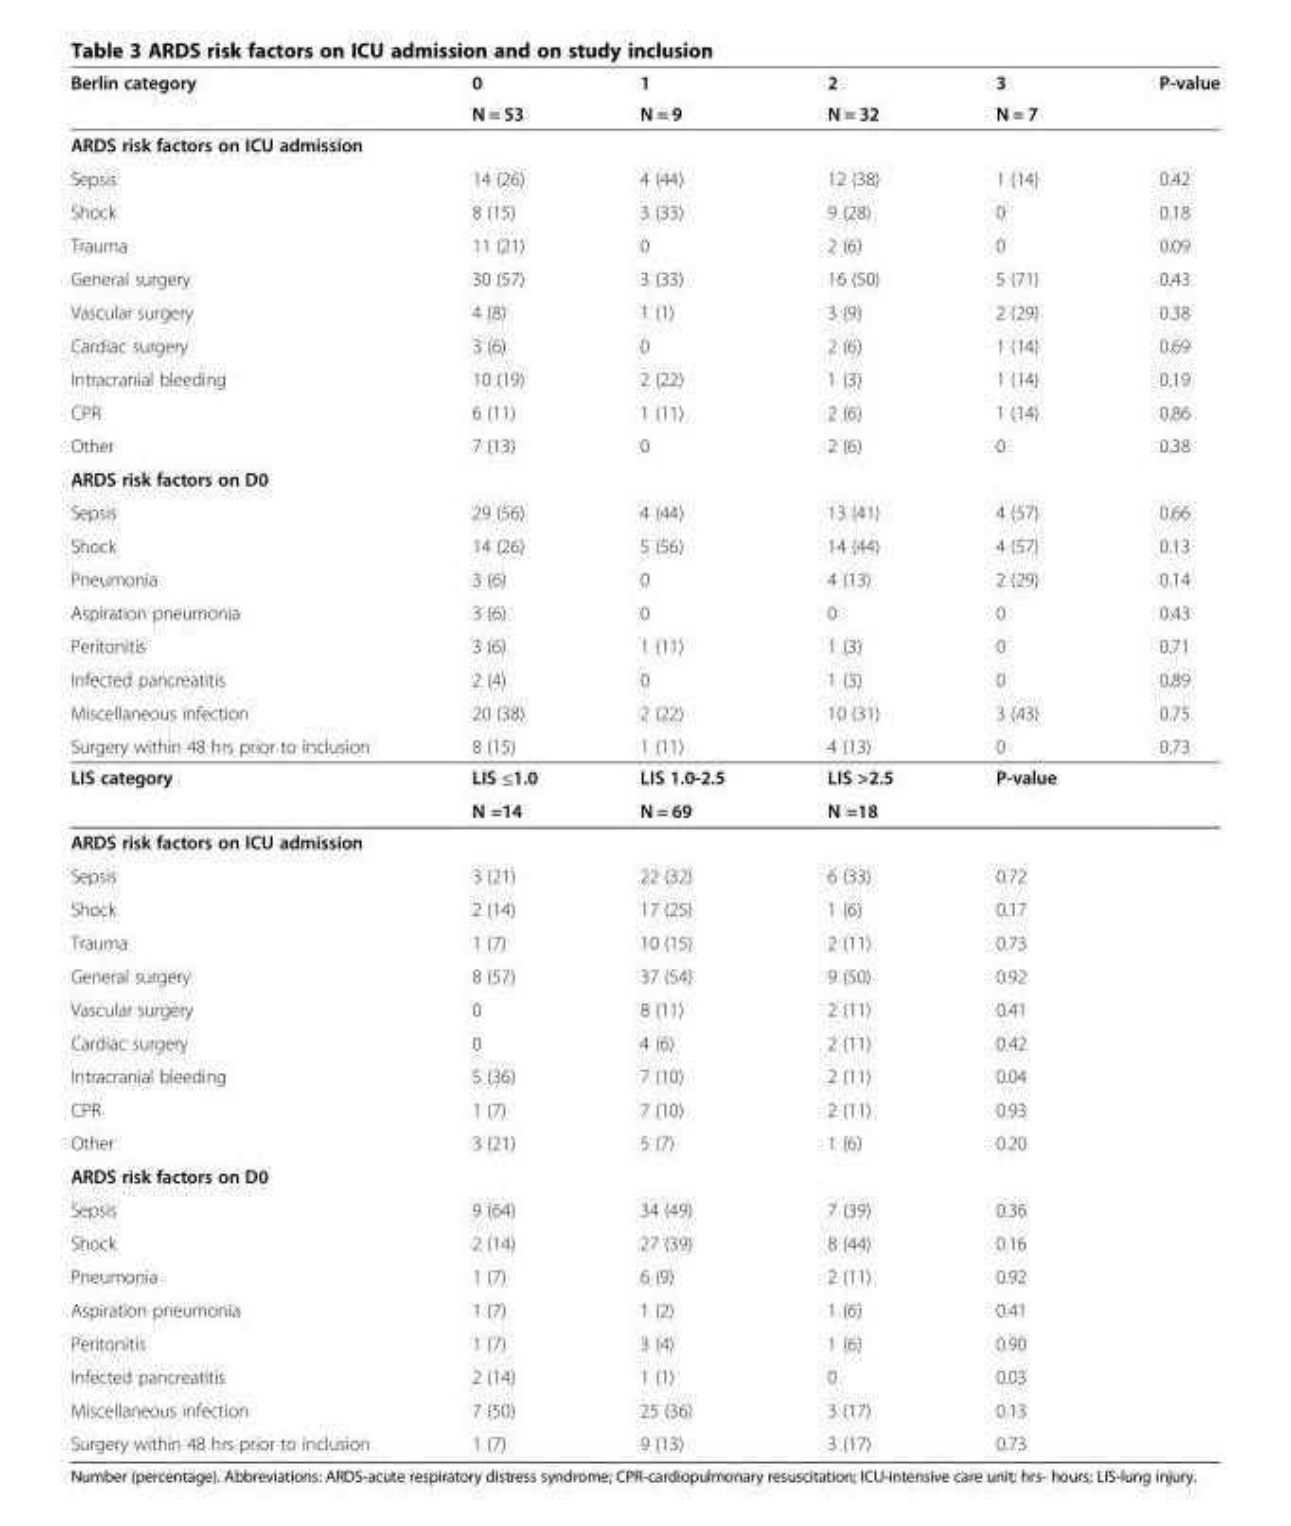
<table><thead><tr><td rowspan="2">Berlin category</td><td rowspan="2">0 N = 53</td><td rowspan="2">1 N = 9</td><td rowspan="2">2 N = 32</td><td rowspan="2">3 N = 7</td><td rowspan="2">P-value</td></tr><tr></tr></thead><tbody><tr><td colspan="6">ARDS risk factors on ICU admission</td></tr><tr><td>Sepsis</td><td>14 (26)</td><td>4 (44)</td><td>12 (38)</td><td>1 (14)</td><td>0.42</td></tr><tr><td>Shock</td><td>8 (15)</td><td>3 (33)</td><td>9 (28)</td><td>0</td><td>0.18</td></tr><tr><td>Trauma</td><td>11 (21)</td><td>0</td><td>2 (6)</td><td>0</td><td>0.09</td></tr><tr><td>General surgery</td><td>30 (57)</td><td>3 (33)</td><td>16 (50)</td><td>5 (71)</td><td>0.43</td></tr><tr><td>Vascular surgery</td><td>4 (8)</td><td>1 (1)</td><td>3 (9)</td><td>2 (29)</td><td>0.38</td></tr><tr><td>Cardiac surgery</td><td>3 (6)</td><td>0</td><td>2 (6)</td><td>1 (14)</td><td>0.69</td></tr><tr><td>Intracranial bleeding</td><td>10 (19)</td><td>2 (22)</td><td>1 (3)</td><td>1 (14)</td><td>0.19</td></tr><tr><td>CPR</td><td>6 (11)</td><td>1 (11)</td><td>2 (6)</td><td>1 (14)</td><td>0.86</td></tr><tr><td>Other</td><td>7 (13)</td><td>0</td><td>2 (6)</td><td>0</td><td>0.38</td></tr><tr><td colspan="6">ARDS risk factors on D0</td></tr><tr><td>Sepsis</td><td>29 (56)</td><td>4 (44)</td><td>13 (41)</td><td>4 (57)</td><td>0.66</td></tr><tr><td>Shock</td><td>14 (26)</td><td>5 (56)</td><td>14 (44)</td><td>4 (57)</td><td>0.13</td></tr><tr><td>Pneumonia</td><td>3 (6)</td><td>0</td><td>4 (13)</td><td>2 (29)</td><td>0.14</td></tr><tr><td>Aspiration pneumonia</td><td>3 (6)</td><td>0</td><td>0</td><td>0</td><td>0.43</td></tr><tr><td>Peritonitis</td><td>3 (6)</td><td>1 (11)</td><td>1 (3)</td><td>0</td><td>0.71</td></tr><tr><td>Infected pancreatitis</td><td>2 (4)</td><td>0</td><td>1 (3)</td><td>0</td><td>0.89</td></tr><tr><td>Miscellaneous infection</td><td>20 (38)</td><td>2 (22)</td><td>10 (31)</td><td>3 (43)</td><td>0.75</td></tr><tr><td>Surgery within 48 hrs prior to inclusion</td><td>8 (15)</td><td>1 (11)</td><td>4 (13)</td><td>0</td><td>0.73</td></tr><tr><td rowspan="2">LIS category</td><td>LIS ≤1.0</td><td>LIS 1.0-2.5</td><td>LIS &gt;2.5</td><td>P-value</td><td></td></tr><tr><td>N =14</td><td>N = 69</td><td>N =18</td><td></td><td></td></tr><tr><td colspan="6">ARDS risk factors on ICU admission</td></tr><tr><td>Sepsis</td><td>3 (21)</td><td>22 (32)</td><td>6 (33)</td><td>0.72</td><td></td></tr><tr><td>Shock</td><td>2 (14)</td><td>17 (25)</td><td>1 (6)</td><td>0.17</td><td></td></tr><tr><td>Trauma</td><td>1 (7)</td><td>10 (15)</td><td>2 (11)</td><td>0.73</td><td></td></tr><tr><td>General surgery</td><td>8 (57)</td><td>37 (54)</td><td>9 (50)</td><td>0.92</td><td></td></tr><tr><td>Vascular surgery</td><td>0</td><td>8 (11)</td><td>2 (11)</td><td>0.41</td><td></td></tr><tr><td>Cardiac surgery</td><td>0</td><td>4 (6)</td><td>2 (11)</td><td>0.42</td><td></td></tr><tr><td>Intracranial bleeding</td><td>5 (36)</td><td>7 (10)</td><td>2 (11)</td><td>0.04</td><td></td></tr><tr><td>CPR</td><td>1 (7)</td><td>7 (10)</td><td>2 (11)</td><td>0.93</td><td></td></tr><tr><td>Other</td><td>3 (21)</td><td>5 (7)</td><td>1 (6)</td><td>0.20</td><td></td></tr><tr><td colspan="6">ARDS risk factors on D0</td></tr><tr><td>Sepsis</td><td>9 (64)</td><td>34 (49)</td><td>7 (39)</td><td>0.36</td><td></td></tr><tr><td>Shock</td><td>2 (14)</td><td>27 (39)</td><td>8 (44)</td><td>0.16</td><td></td></tr><tr><td>Pneumonia</td><td>1 (7)</td><td>6 (9)</td><td>2 (11)</td><td>0.92</td><td></td></tr><tr><td>Aspiration pneumonia</td><td>1 (7)</td><td>1 (2)</td><td>1 (6)</td><td>0.41</td><td></td></tr><tr><td>Peritonitis</td><td>1 (7)</td><td>3 (4)</td><td>1 (6)</td><td>0.90</td><td></td></tr><tr><td>Infected pancreatitis</td><td>2 (14)</td><td>1 (1)</td><td>0</td><td>0.03</td><td></td></tr><tr><td>Miscellaneous infection</td><td>7 (50)</td><td>25 (36)</td><td>3 (17)</td><td>0.13</td><td></td></tr><tr><td>Surgery within 48 hrs prior to inclusion</td><td>1 (7)</td><td>9 (13)</td><td>3 (17)</td><td>0.73</td><td></td></tr></tbody></table>